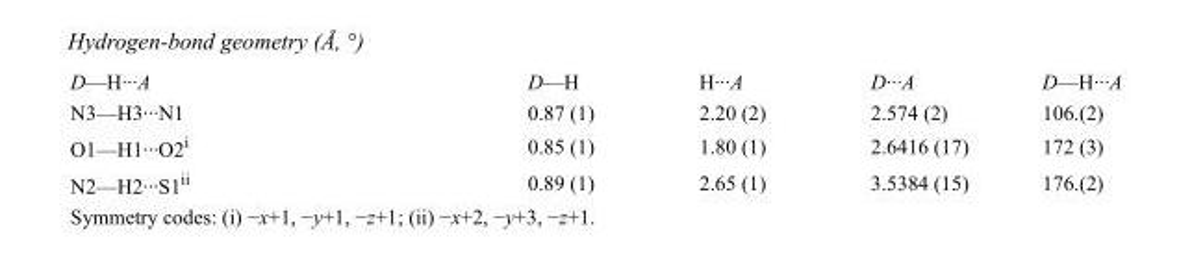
<table><tbody><tr><td>D—H···A</td><td>D—H</td><td>H···A</td><td>D···A</td><td>D—H···A</td></tr><tr><td>N3—H3···N1</td><td>0.87 (1)</td><td>2.20 (2)</td><td>2.574 (2)</td><td>106.(2)</td></tr><tr><td>O1—H1···O2<sup>i</sup></td><td>0.85 (1)</td><td>1.80 (1)</td><td>2.6416 (17)</td><td>172 (3)</td></tr><tr><td>N2—H2···S1<sup>ii</sup></td><td>0.89 (1)</td><td>2.65 (1)</td><td>3.5384 (15)</td><td>176.(2)</td></tr></tbody></table>